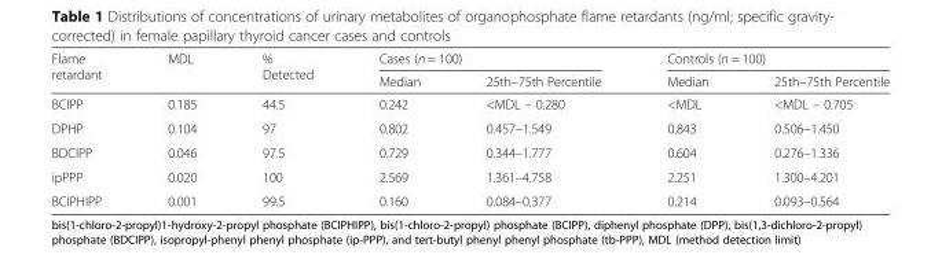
<table><thead><tr><td rowspan="2">Flame retardant</td><td rowspan="2">MDL</td><td rowspan="2">% Detected</td><td colspan="2">Cases (n = 100)</td><td colspan="2">Controls (n = 100)</td></tr><tr><td>Median</td><td>25th–75th Percentile</td><td>Median</td><td>25th–75th Percentile</td></tr></thead><tbody><tr><td>BCIPP</td><td>0.185</td><td>44.5</td><td>0.242</td><td>&lt;MDL – 0.280</td><td>&lt;MDL</td><td>&lt;MDL – 0.705</td></tr><tr><td>DPHP</td><td>0.104</td><td>97</td><td>0.802</td><td>0.457–1.549</td><td>0.843</td><td>0.506–1.450</td></tr><tr><td>BDCIPP</td><td>0.046</td><td>97.5</td><td>0.729</td><td>0.344–1.777</td><td>0.604</td><td>0.276–1.336</td></tr><tr><td>ipPPP</td><td>0.020</td><td>100</td><td>2.569</td><td>1.361–4.758</td><td>2.251</td><td>1.300–4.201</td></tr><tr><td>BCIPHIPP</td><td>0.001</td><td>99.5</td><td>0.160</td><td>0.084–0.377</td><td>0.214</td><td>0.093–0.564</td></tr></tbody></table>